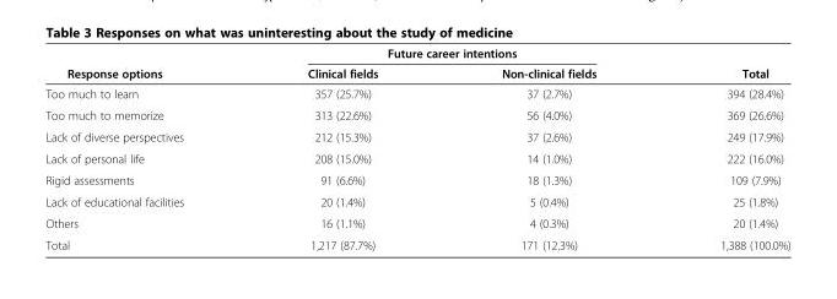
<table><thead><tr><td rowspan="2">Response options</td><td colspan="2">Future career intentions</td><td rowspan="2">Total</td></tr><tr><td>Clinical fields</td><td>Non-clinical fields</td></tr></thead><tbody><tr><td>Too much to learn</td><td>357 (25.7%)</td><td>37 (2.7%)</td><td>394 (28.4%)</td></tr><tr><td>Too much to memorize</td><td>313 (22.6%)</td><td>56 (4.0%)</td><td>369 (26.6%)</td></tr><tr><td>Lack of diverse perspectives</td><td>212 (15.3%)</td><td>37 (2.6%)</td><td>249 (17.9%)</td></tr><tr><td>Lack of personal life</td><td>208 (15.0%)</td><td>14 (1.0%)</td><td>222 (16.0%)</td></tr><tr><td>Rigid assessments</td><td>91 (6.6%)</td><td>18 (1.3%)</td><td>109 (7.9%)</td></tr><tr><td>Lack of educational facilities</td><td>20 (1.4%)</td><td>5 (0.4%)</td><td>25 (1.8%)</td></tr><tr><td>Others</td><td>16 (1.1%)</td><td>4 (0.3%)</td><td>20 (1.4%)</td></tr><tr><td>Total</td><td>1,217 (87.7%)</td><td>171 (12.3%)</td><td>1,388 (100.0%)</td></tr></tbody></table>